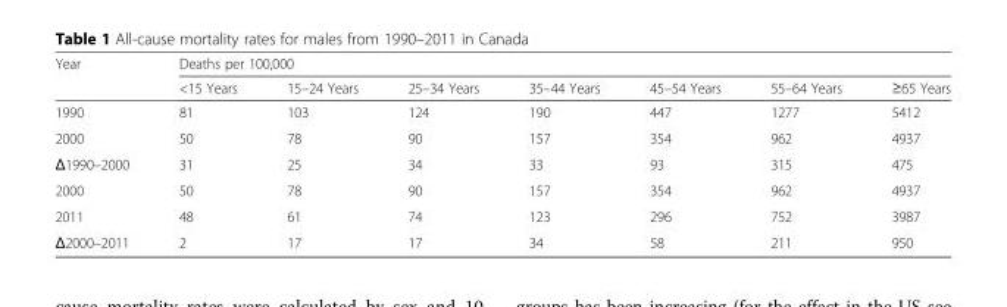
<table><thead><tr><td rowspan="2">Year</td><td colspan="7">Deaths per 100,000</td></tr><tr><td>&lt;15 Years</td><td>15–24 Years</td><td>25–34 Years</td><td>35–44 Years</td><td>45–54 Years</td><td>55–64 Years</td><td>≥65 Years</td></tr></thead><tbody><tr><td>1990</td><td>81</td><td>103</td><td>124</td><td>190</td><td>447</td><td>1277</td><td>5412</td></tr><tr><td>2000</td><td>50</td><td>78</td><td>90</td><td>157</td><td>354</td><td>962</td><td>4937</td></tr><tr><td>Δ1990–2000</td><td>31</td><td>25</td><td>34</td><td>33</td><td>93</td><td>315</td><td>475</td></tr><tr><td>2000</td><td>50</td><td>78</td><td>90</td><td>157</td><td>354</td><td>962</td><td>4937</td></tr><tr><td>2011</td><td>48</td><td>61</td><td>74</td><td>123</td><td>296</td><td>752</td><td>3987</td></tr><tr><td>Δ2000–2011</td><td>2</td><td>17</td><td>17</td><td>34</td><td>58</td><td>211</td><td>950</td></tr></tbody></table>